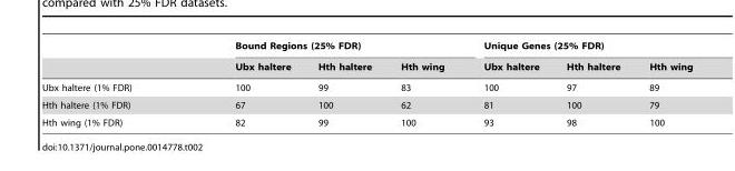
<table><thead><tr><td rowspan="2"></td><td colspan="3">Bound Regions (25% FDR)</td><td colspan="3">Unique Genes (25% FDR)</td></tr><tr><td>Ubx haltere</td><td>Hth haltere</td><td>Hth wing</td><td>Ubx haltere</td><td>Hth haltere</td><td>Hth wing</td></tr></thead><tbody><tr><td>Ubx haltere (1% FDR)</td><td>100</td><td>99</td><td>83</td><td>100</td><td>97</td><td>89</td></tr><tr><td>Hth haltere (1% FDR)</td><td>67</td><td>100</td><td>62</td><td>81</td><td>100</td><td>79</td></tr><tr><td>Hth wing (1% FDR)</td><td>82</td><td>99</td><td>100</td><td>93</td><td>98</td><td>100</td></tr></tbody></table>